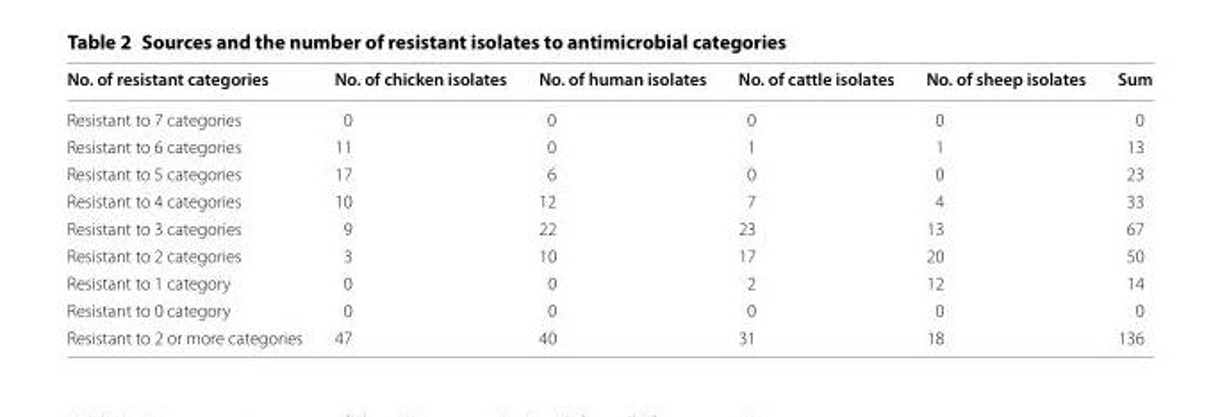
<table><thead><tr><td>No. of resistant categories</td><td>No. of chicken isolates</td><td>No. of human isolates</td><td>No. of cattle isolates</td><td>No. of sheep isolates</td><td>Sum</td></tr></thead><tbody><tr><td>Resistant to 7 categories</td><td>0</td><td>0</td><td>0</td><td>0</td><td>0</td></tr><tr><td>Resistant to 6 categories</td><td>11</td><td>0</td><td>1</td><td>1</td><td>13</td></tr><tr><td>Resistant to 5 categories</td><td>17</td><td>6</td><td>0</td><td>0</td><td>23</td></tr><tr><td>Resistant to 4 categories</td><td>10</td><td>12</td><td>7</td><td>4</td><td>33</td></tr><tr><td>Resistant to 3 categories</td><td>9</td><td>22</td><td>23</td><td>13</td><td>67</td></tr><tr><td>Resistant to 2 categories</td><td>3</td><td>10</td><td>17</td><td>20</td><td>50</td></tr><tr><td>Resistant to 1 category</td><td>0</td><td>0</td><td>2</td><td>12</td><td>14</td></tr><tr><td>Resistant to 0 category</td><td>0</td><td>0</td><td>0</td><td>0</td><td>0</td></tr><tr><td>Resistant to 2 or more categories</td><td>47</td><td>40</td><td>31</td><td>18</td><td>136</td></tr></tbody></table>